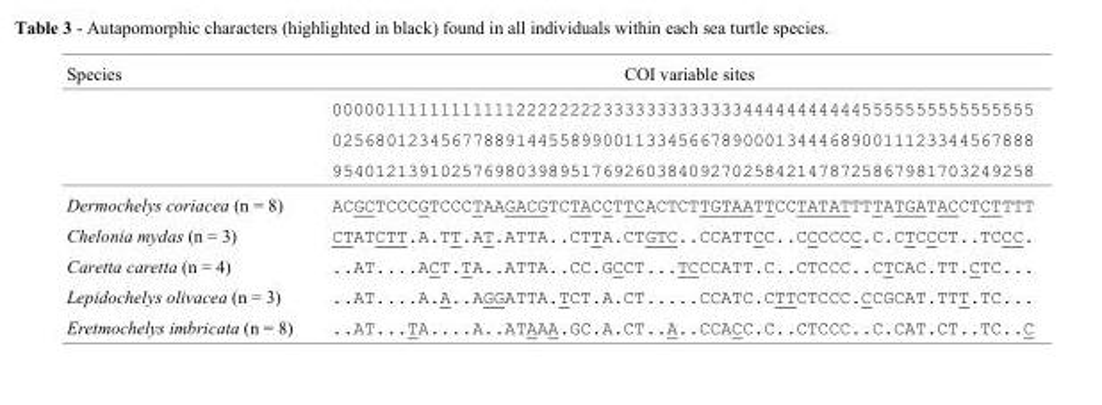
<table><thead><tr><td rowspan="4">Species</td><td rowspan="4">COI variable sites 00000111111111111222222223333333333333444444444445555555555555555 02568012345677889144558990011334566789000134446890011123344567888 95401213910257698039895176926038409270258421478725867981703249258</td></tr><tr></tr><tr></tr><tr></tr></thead><tbody><tr><td>Dermochelys coriacea (n = 8)</td><td>ACGCTCCCGTCCCTAAGACGTCTACCTTCACTCTTGTAATTCCTATATTTTATGATACCTCTTTT</td></tr><tr><td>Chelonia mydas (n = 3)</td><td>CTATCTT.A.TT.AT.ATTA..CTTA.CTGTC..CCATTCC..CCCCCC.C.CTCCCT..TCCC.</td></tr><tr><td>Caretta caretta (n = 4)</td><td>..AT....ACT.TA..ATTA..CC.GCCT...TCCCATT.C..CTCCC..CTCAC.TT.CTC...</td></tr><tr><td>Lepidochelys olivacea (n = 3)</td><td>..AT....A.A..AGGATTA.TCT.A.CT.....CCATC.CTTCTCCC.CCGCAT.TTT.TC...</td></tr><tr><td>Eretmochelys imbricata (n = 8)</td><td>..AT...TA....A..ATAAA.GC.A.CT..A..CCACC.C..CTCCC..C.CAT.CT..TC..C</td></tr></tbody></table>